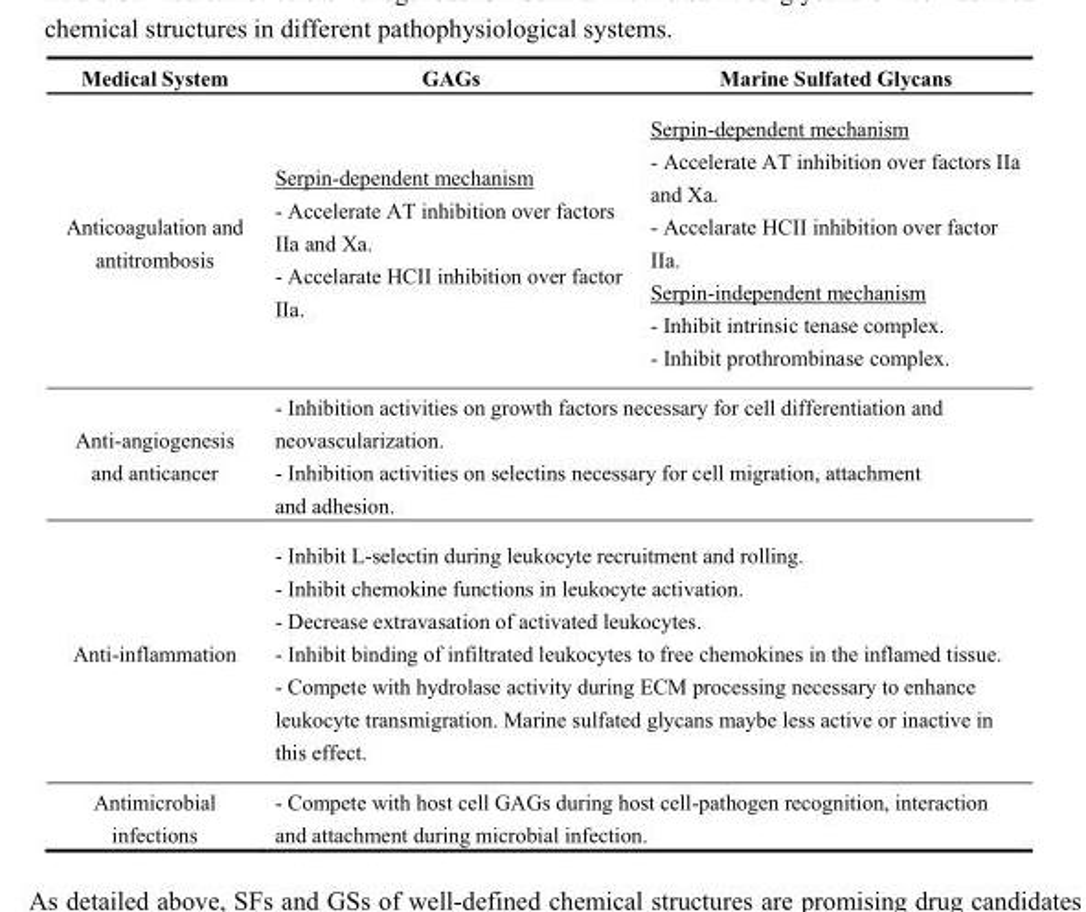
<table><thead><tr><td>Medical System</td><td>GAGs</td><td>Marine Sulfated Glycans</td></tr></thead><tbody><tr><td>Anticoagulation and antitrombosis</td><td>Serpin-dependent mechanism - Accelerate AT inhibition over factors IIa and Xa. - Accelarate HCII inhibition over factor IIa.</td><td>Serpin-dependent mechanism - Accelerate AT inhibition over factors IIa and Xa. - Accelarate HCII inhibition over factor IIa. Serpin-independent mechanism - Inhibit intrinsic tenase complex. - Inhibit prothrombinase complex.</td></tr><tr><td>Anti-angiogenesis and anticancer</td><td colspan="2">- Inhibition activities on growth factors necessary for cell differentiation and neovascularization. - Inhibition activities on selectins necessary for cell migration, attachment and adhesion.</td></tr><tr><td>Anti-inflammation</td><td colspan="2">- Inhibit L-selectin during leukocyte recruitment and rolling. - Inhibit chemokine functions in leukocyte activation. - Decrease extravasation of activated leukocytes. - Inhibit binding of infiltrated leukocytes to free chemokines in the inflamed tissue. - Compete with hydrolase activity during ECM processing necessary to enhance leukocyte transmigration. Marine sulfated glycans maybe less active or inactive in this effect.</td></tr><tr><td>Antimicrobial infections</td><td colspan="2">- Compete with host cell GAGs during host cell-pathogen recognition, interaction and attachment during microbial infection.</td></tr></tbody></table>